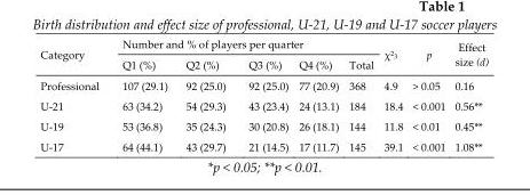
<table><thead><tr><td rowspan="2">Category</td><td colspan="5">Number and % of players per quarter</td><td rowspan="2">χ<sup>2<sub>3</sub></sup></td><td rowspan="2">p</td><td rowspan="2">Effect size (d)</td></tr><tr><td>Q1 (%)</td><td>Q2 (%)</td><td>Q3 (%)</td><td>Q4 (%)</td><td>Total</td></tr></thead><tbody><tr><td>Professional</td><td>107 (29.1)</td><td>92 (25.0)</td><td>92 (25.0)</td><td>77 (20.9)</td><td>368</td><td>4.9</td><td>&gt; 0.05</td><td>0.16</td></tr><tr><td>U-21</td><td>63 (34.2)</td><td>54 (29.3)</td><td>43 (23.4)</td><td>24 (13.1)</td><td>184</td><td>18.4</td><td>&lt; 0.001</td><td>0.56**</td></tr><tr><td>U-19</td><td>53 (36.8)</td><td>35 (24.3)</td><td>30 (20.8)</td><td>26 (18.1)</td><td>144</td><td>11.8</td><td>&lt; 0.01</td><td>0.45**</td></tr><tr><td>U-17</td><td>64 (44.1)</td><td>43 (29.7)</td><td>21 (14.5)</td><td>17 (11.7)</td><td>145</td><td>39.1</td><td>&lt; 0.001</td><td>1.08**</td></tr></tbody></table>